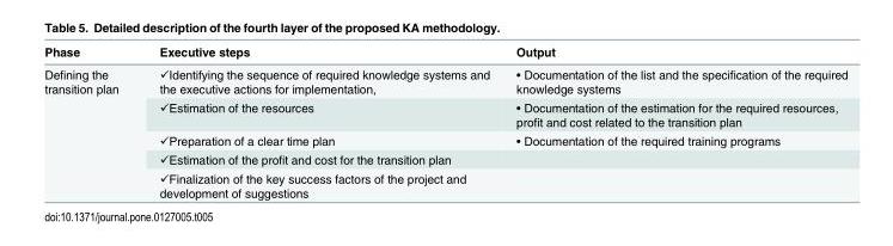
<table><thead><tr><td>Phase</td><td>Executive steps</td><td>Output</td></tr></thead><tbody><tr><td rowspan="5">Defining the transition plan</td><td>✓Identifying the sequence of required knowledge systems and the executive actions for implementation,</td><td>• Documentation of the list and the specification of the required knowledge systems</td></tr><tr><td>✓Estimation of the resources</td><td>• Documentation of the estimation for the required resources, profit and cost related to the transition plan</td></tr><tr><td>✓Preparation of a clear time plan</td><td>• Documentation of the required training programs</td></tr><tr><td>✓Estimation of the profit and cost for the transition plan</td><td></td></tr><tr><td>✓Finalization of the key success factors of the project and development of suggestions</td><td></td></tr></tbody></table>